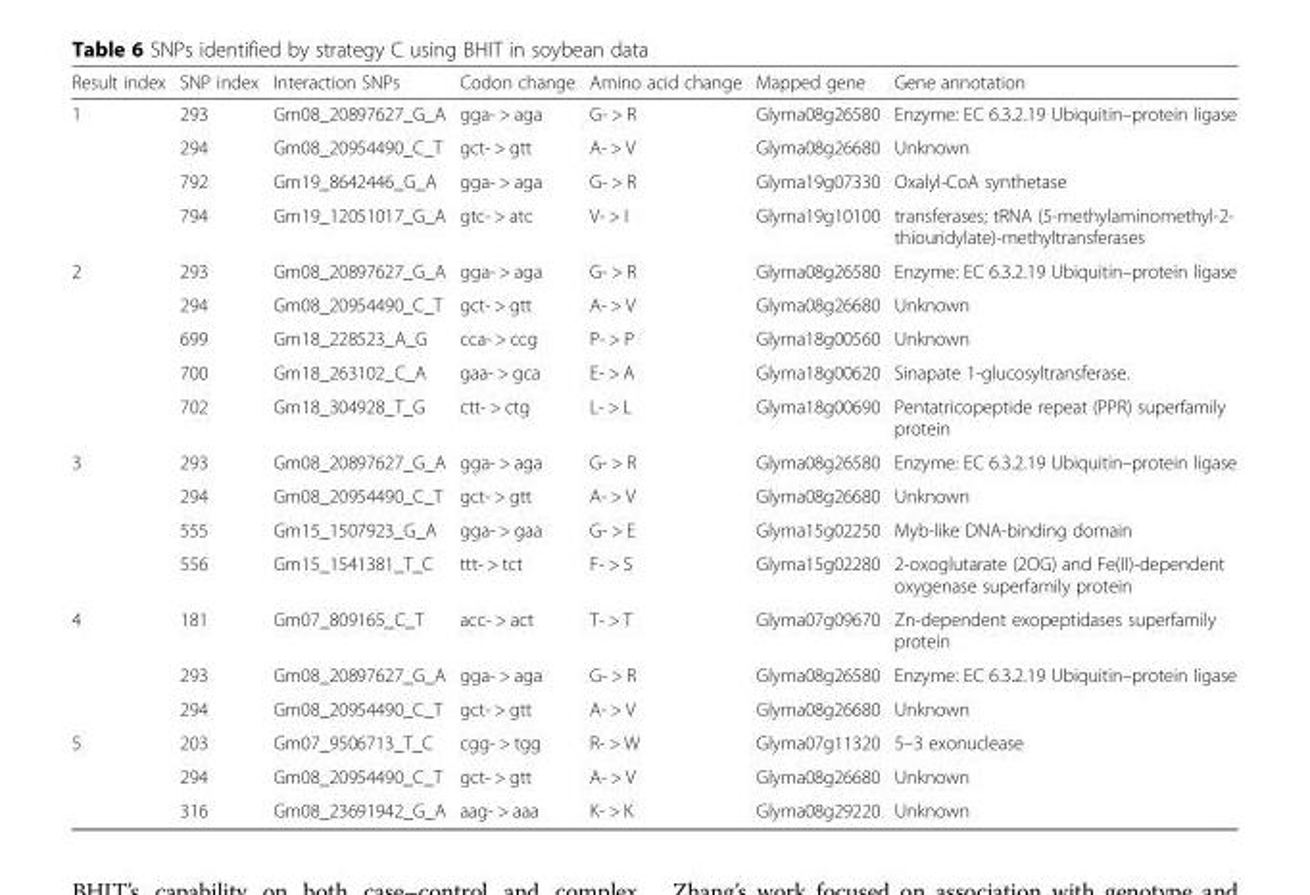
<table><thead><tr><td>Result index</td><td>SNP index</td><td>Interaction SNPs</td><td>Codon change</td><td>Amino acid change</td><td>Mapped gene</td><td>Gene annotation</td></tr></thead><tbody><tr><td rowspan="4">1</td><td>293</td><td>Gm08_20897627_G_A</td><td>gga- &gt; aga</td><td>G- &gt; R</td><td>Glyma08g26580</td><td>Enzyme: EC 6.3.2.19 Ubiquitin–protein ligase</td></tr><tr><td>294</td><td>Gm08_20954490_C_T</td><td>gct- &gt; gtt</td><td>A- &gt; V</td><td>Glyma08g26680</td><td>Unknown</td></tr><tr><td>792</td><td>Gm19_8642446_G_A</td><td>gga- &gt; aga</td><td>G- &gt; R</td><td>Glyma19g07330</td><td>Oxalyl-CoA synthetase</td></tr><tr><td>794</td><td>Gm19_12051017_G_A</td><td>gtc- &gt; atc</td><td>V- &gt; I</td><td>Glyma19g10100</td><td>transferases; tRNA (5-methylaminomethyl-2- thiouridylate)-methyltransferases</td></tr><tr><td rowspan="5">2</td><td>293</td><td>Gm08_20897627_G_A</td><td>gga- &gt; aga</td><td>G- &gt; R</td><td>Glyma08g26580</td><td>Enzyme: EC 6.3.2.19 Ubiquitin–protein ligase</td></tr><tr><td>294</td><td>Gm08_20954490_C_T</td><td>gct- &gt; gtt</td><td>A- &gt; V</td><td>Glyma08g26680</td><td>Unknown</td></tr><tr><td>699</td><td>Gm18_228523_A_G</td><td>cca- &gt; ccg</td><td>P- &gt; P</td><td>Glyma18g00560</td><td>Unknown</td></tr><tr><td>700</td><td>Gm18_263102_C_A</td><td>gaa- &gt; gca</td><td>E- &gt; A</td><td>Glyma18g00620</td><td>Sinapate 1-glucosyltransferase.</td></tr><tr><td>702</td><td>Gm18_304928_T_G</td><td>ctt- &gt; ctg</td><td>L- &gt; L</td><td>Glyma18g00690</td><td>Pentatricopeptide repeat (PPR) superfamily protein</td></tr><tr><td rowspan="4">3</td><td>293</td><td>Gm08_20897627_G_A</td><td>gga- &gt; aga</td><td>G- &gt; R</td><td>Glyma08g26580</td><td>Enzyme: EC 6.3.2.19 Ubiquitin–protein ligase</td></tr><tr><td>294</td><td>Gm08_20954490_C_T</td><td>gct- &gt; gtt</td><td>A- &gt; V</td><td>Glyma08g26680</td><td>Unknown</td></tr><tr><td>555</td><td>Gm15_1507923_G_A</td><td>gga- &gt; gaa</td><td>G- &gt; E</td><td>Glyma15g02250</td><td>Myb-like DNA-binding domain</td></tr><tr><td>556</td><td>Gm15_1541381_T_C</td><td>ttt- &gt; tct</td><td>F- &gt; S</td><td>Glyma15g02280</td><td>2-oxoglutarate (2OG) and Fe(II)-dependent oxygenase superfamily protein</td></tr><tr><td rowspan="3">4</td><td>181</td><td>Gm07_809165_C_T</td><td>acc- &gt; act</td><td>T- &gt; T</td><td>Glyma07g09670</td><td>Zn-dependent exopeptidases superfamily protein</td></tr><tr><td>293</td><td>Gm08_20897627_G_A</td><td>gga- &gt; aga</td><td>G- &gt; R</td><td>Glyma08g26580</td><td>Enzyme: EC 6.3.2.19 Ubiquitin–protein ligase</td></tr><tr><td>294</td><td>Gm08_20954490_C_T</td><td>gct- &gt; gtt</td><td>A- &gt; V</td><td>Glyma08g26680</td><td>Unknown</td></tr><tr><td rowspan="3">5</td><td>203</td><td>Gm07_9506713_T_C</td><td>cgg- &gt; tgg</td><td>R- &gt; W</td><td>Glyma07g11320</td><td>5–3 exonuclease</td></tr><tr><td>294</td><td>Gm08_20954490_C_T</td><td>gct- &gt; gtt</td><td>A- &gt; V</td><td>Glyma08g26680</td><td>Unknown</td></tr><tr><td>316</td><td>Gm08_23691942_G_A</td><td>aag- &gt; aaa</td><td>K- &gt; K</td><td>Glyma08g29220</td><td>Unknown</td></tr></tbody></table>